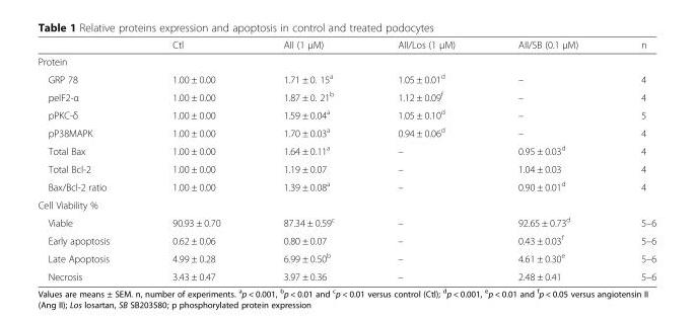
<table><thead><tr><td></td><td>Ctl</td><td>AII (1 μM)</td><td>AII/Los (1 μM)</td><td>AII/SB (0.1 μM)</td><td>n</td></tr></thead><tbody><tr><td colspan="6">Protein</td></tr><tr><td>GRP 78</td><td>1.00 ± 0.00</td><td>1.71 ± 0. 15<sup>a</sup></td><td>1.05 ± 0.01<sup>d</sup></td><td>–</td><td>4</td></tr><tr><td>peIF2-α</td><td>1.00 ± 0.00</td><td>1.87 ± 0. 21<sup>b</sup></td><td>1.12 ± 0.09<sup>f</sup></td><td>–</td><td>4</td></tr><tr><td>pPKC-δ</td><td>1.00 ± 0.00</td><td>1.59 ± 0.04<sup>a</sup></td><td>1.05 ± 0.10<sup>d</sup></td><td>–</td><td>5</td></tr><tr><td>pP38MAPK</td><td>1.00 ± 0.00</td><td>1.70 ± 0.03<sup>a</sup></td><td>0.94 ± 0.06<sup>d</sup></td><td>–</td><td>4</td></tr><tr><td>Total Bax</td><td>1.00 ± 0.00</td><td>1.64 ± 0.11<sup>a</sup></td><td>–</td><td>0.95 ± 0.03<sup>d</sup></td><td>4</td></tr><tr><td>Total Bcl-2</td><td>1.00 ± 0.00</td><td>1.19 ± 0.07</td><td>–</td><td>1.04 ± 0.03</td><td>4</td></tr><tr><td>Bax/Bcl-2 ratio</td><td>1.00 ± 0.00</td><td>1.39 ± 0.08<sup>a</sup></td><td>–</td><td>0.90 ± 0.01<sup>d</sup></td><td>4</td></tr><tr><td colspan="6">Cell Viability %</td></tr><tr><td>Viable</td><td>90.93 ± 0.70</td><td>87.34 ± 0.59<sup>c</sup></td><td>–</td><td>92.65 ± 0.73<sup>d</sup></td><td>5–6</td></tr><tr><td>Early apoptosis</td><td>0.62 ± 0.06</td><td>0.80 ± 0.07</td><td>–</td><td>0.43 ± 0.03<sup>f</sup></td><td>5–6</td></tr><tr><td>Late Apoptosis</td><td>4.99 ± 0.28</td><td>6.99 ± 0.50<sup>b</sup></td><td>–</td><td>4.61 ± 0.30<sup>e</sup></td><td>5–6</td></tr><tr><td>Necrosis</td><td>3.43 ± 0.47</td><td>3.97 ± 0.36</td><td>–</td><td>2.48 ± 0.41</td><td>5–6</td></tr></tbody></table>